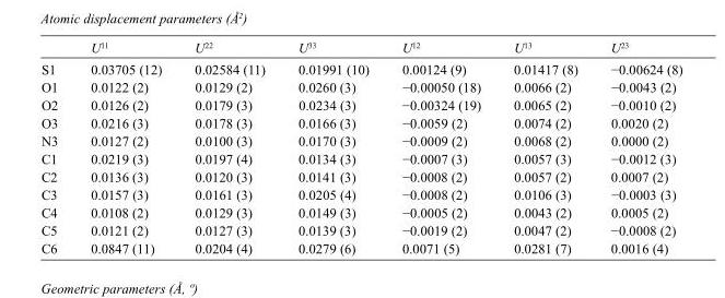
<table><thead><tr><td></td><td>U<sup>11</sup></td><td>U<sup>22</sup></td><td>U<sup>33</sup></td><td>U<sup>12</sup></td><td>U<sup>13</sup></td><td>U<sup>23</sup></td></tr></thead><tbody><tr><td>S1</td><td>0.03705 (12)</td><td>0.02584 (11)</td><td>0.01991 (10)</td><td>0.00124 (9)</td><td>0.01417 (8)</td><td>−0.00624 (8)</td></tr><tr><td>O1</td><td>0.0122 (2)</td><td>0.0129 (2)</td><td>0.0260 (3)</td><td>−0.00050 (18)</td><td>0.0066 (2)</td><td>−0.0043 (2)</td></tr><tr><td>O2</td><td>0.0126 (2)</td><td>0.0179 (3)</td><td>0.0234 (3)</td><td>−0.00324 (19)</td><td>0.0065 (2)</td><td>−0.0010 (2)</td></tr><tr><td>O3</td><td>0.0216 (3)</td><td>0.0178 (3)</td><td>0.0166 (3)</td><td>−0.0059 (2)</td><td>0.0074 (2)</td><td>0.0020 (2)</td></tr><tr><td>N3</td><td>0.0127 (2)</td><td>0.0100 (3)</td><td>0.0170 (3)</td><td>−0.0009 (2)</td><td>0.0068 (2)</td><td>0.0000 (2)</td></tr><tr><td>C1</td><td>0.0219 (3)</td><td>0.0197 (4)</td><td>0.0134 (3)</td><td>−0.0007 (3)</td><td>0.0057 (3)</td><td>−0.0012 (3)</td></tr><tr><td>C2</td><td>0.0136 (3)</td><td>0.0120 (3)</td><td>0.0141 (3)</td><td>−0.0008 (2)</td><td>0.0057 (2)</td><td>0.0007 (2)</td></tr><tr><td>C3</td><td>0.0157 (3)</td><td>0.0161 (3)</td><td>0.0205 (4)</td><td>−0.0008 (2)</td><td>0.0106 (3)</td><td>−0.0003 (3)</td></tr><tr><td>C4</td><td>0.0108 (2)</td><td>0.0129 (3)</td><td>0.0149 (3)</td><td>−0.0005 (2)</td><td>0.0043 (2)</td><td>0.0005 (2)</td></tr><tr><td>C5</td><td>0.0121 (2)</td><td>0.0127 (3)</td><td>0.0139 (3)</td><td>−0.0019 (2)</td><td>0.0047 (2)</td><td>−0.0008 (2)</td></tr><tr><td>C6</td><td>0.0847 (11)</td><td>0.0204 (4)</td><td>0.0279 (6)</td><td>0.0071 (5)</td><td>0.0281 (7)</td><td>0.0016 (4)</td></tr></tbody></table>